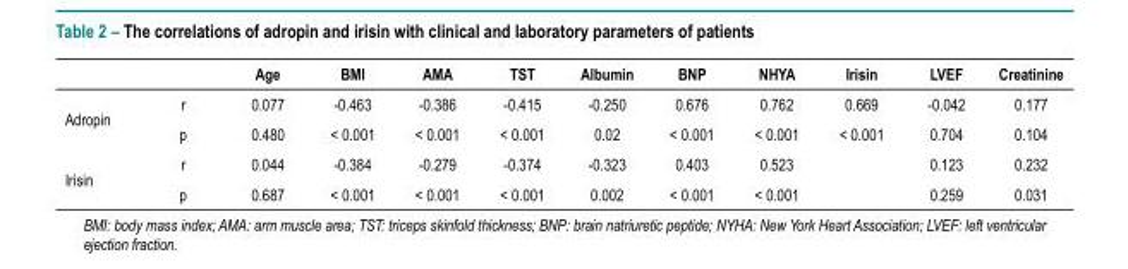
<table><thead><tr><td></td><td></td><td>Age</td><td>BMI</td><td>AMA</td><td>TST</td><td>Albumin</td><td>BNP</td><td>NHYA</td><td>Irisin</td><td>LVEF</td><td>Creatinine</td></tr></thead><tbody><tr><td rowspan="2">Adropin</td><td>r</td><td>0.077</td><td>-0.463</td><td>-0.386</td><td>-0.415</td><td>-0.250</td><td>0.676</td><td>0.762</td><td>0.669</td><td>-0.042</td><td>0.177</td></tr><tr><td>p</td><td>0.480</td><td>&lt; 0.001</td><td>&lt; 0.001</td><td>&lt; 0.001</td><td>0.02</td><td>&lt; 0.001</td><td>&lt; 0.001</td><td>&lt; 0.001</td><td>0.704</td><td>0.104</td></tr><tr><td rowspan="2">Irisin</td><td>r</td><td>0.044</td><td>-0.384</td><td>-0.279</td><td>-0.374</td><td>-0.323</td><td>0.403</td><td>0.523</td><td></td><td>0.123</td><td>0.232</td></tr><tr><td>p</td><td>0.687</td><td>&lt; 0.001</td><td>&lt; 0.001</td><td>&lt; 0.001</td><td>0.002</td><td>&lt; 0.001</td><td>&lt; 0.001</td><td></td><td>0.259</td><td>0.031</td></tr></tbody></table>